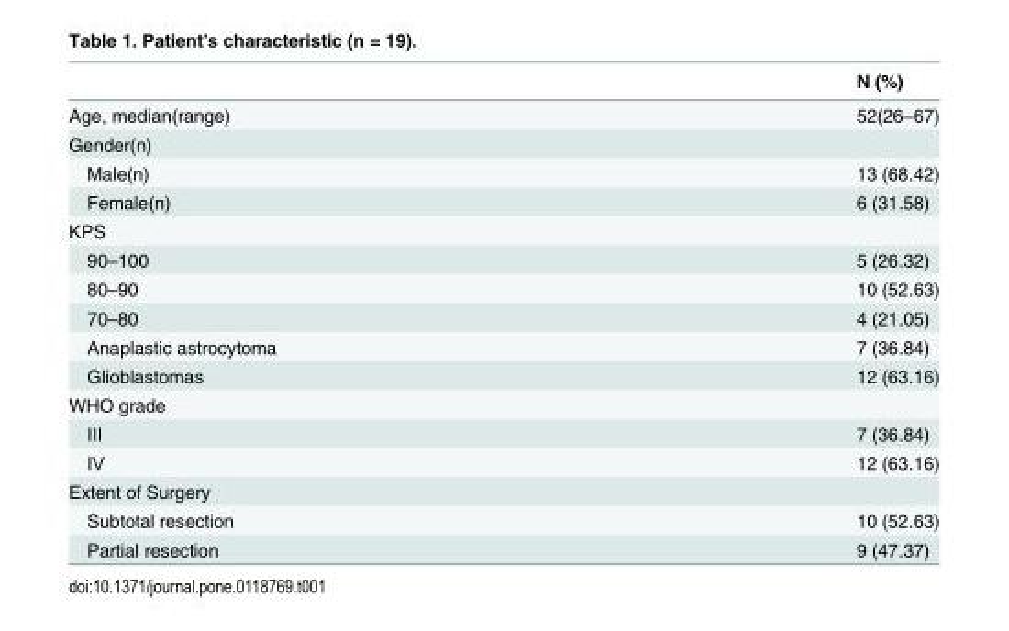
<table><thead><tr><td></td><td>N (%)</td></tr></thead><tbody><tr><td>Age, median(range)</td><td>52(26–67)</td></tr><tr><td colspan="2">Gender(n)</td></tr><tr><td>Male(n)</td><td>13 (68.42)</td></tr><tr><td>Female(n)</td><td>6 (31.58)</td></tr><tr><td colspan="2">KPS</td></tr><tr><td>90–100</td><td>5 (26.32)</td></tr><tr><td>80–90</td><td>10 (52.63)</td></tr><tr><td>70–80</td><td>4 (21.05)</td></tr><tr><td>Anaplastic astrocytoma</td><td>7 (36.84)</td></tr><tr><td>Glioblastomas</td><td>12 (63.16)</td></tr><tr><td colspan="2">WHO grade</td></tr><tr><td>Ⅲ</td><td>7 (36.84)</td></tr><tr><td>Ⅳ</td><td>12 (63.16)</td></tr><tr><td colspan="2">Extent of Surgery</td></tr><tr><td>Subtotal resection</td><td>10 (52.63)</td></tr><tr><td>Partial resection</td><td>9 (47.37)</td></tr></tbody></table>